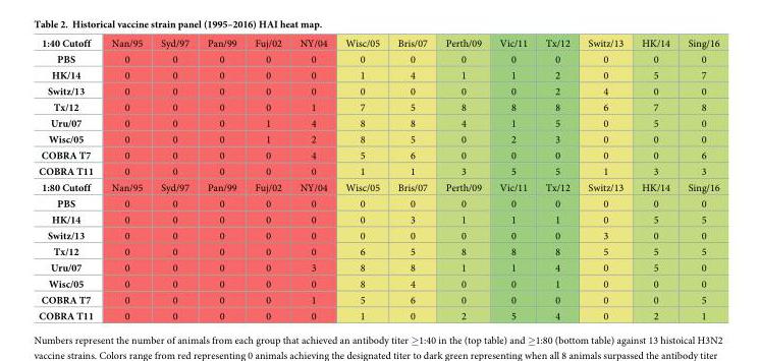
<table><tbody><tr><td>1:40 Cutoff</td><td>Nan/95</td><td>Syd/97</td><td>Pan/99</td><td>Fuj/02</td><td>NY/04</td><td>Wisc/05</td><td>Bris/07</td><td>Perth/09</td><td>Vic/11</td><td>Tx/12</td><td>Switz/13</td><td>HK/14</td><td>Sing/16</td></tr><tr><td>PBS</td><td>0</td><td>0</td><td>0</td><td>0</td><td>0</td><td>0</td><td>0</td><td>0</td><td>0</td><td>0</td><td>0</td><td>0</td><td>0</td></tr><tr><td>HK/14</td><td>0</td><td>0</td><td>0</td><td>0</td><td>0</td><td>1</td><td>4</td><td>1</td><td>1</td><td>2</td><td>0</td><td>5</td><td>7</td></tr><tr><td>Switz/13</td><td>0</td><td>0</td><td>0</td><td>0</td><td>0</td><td>0</td><td>0</td><td>0</td><td>0</td><td>2</td><td>4</td><td>0</td><td>0</td></tr><tr><td>Tx/12</td><td>0</td><td>0</td><td>0</td><td>0</td><td>1</td><td>7</td><td>5</td><td>8</td><td>8</td><td>8</td><td>6</td><td>7</td><td>8</td></tr><tr><td>Uru/07</td><td>0</td><td>0</td><td>0</td><td>1</td><td>4</td><td>8</td><td>8</td><td>4</td><td>1</td><td>5</td><td>0</td><td>5</td><td>0</td></tr><tr><td>Wisc/05</td><td>0</td><td>0</td><td>0</td><td>1</td><td>2</td><td>8</td><td>5</td><td>0</td><td>2</td><td>3</td><td>0</td><td>0</td><td>0</td></tr><tr><td>COBRA T7</td><td>0</td><td>0</td><td>0</td><td>0</td><td>4</td><td>5</td><td>6</td><td>0</td><td>0</td><td>0</td><td>0</td><td>0</td><td>6</td></tr><tr><td>COBRA T11</td><td>0</td><td>0</td><td>0</td><td>0</td><td>0</td><td>1</td><td>1</td><td>3</td><td>5</td><td>5</td><td>1</td><td>3</td><td>3</td></tr><tr><td>1:80 Cutoff</td><td>Nan/95</td><td>Syd/97</td><td>Pan/99</td><td>Fuj/02</td><td>NY/04</td><td>Wisc/05</td><td>Bris/07</td><td>Perth/09</td><td>Vic/11</td><td>Tx/12</td><td>Switz/13</td><td>HK/14</td><td>Sing/16</td></tr><tr><td>PBS</td><td>0</td><td>0</td><td>0</td><td>0</td><td>0</td><td>0</td><td>0</td><td>0</td><td>0</td><td>0</td><td>0</td><td>0</td><td>0</td></tr><tr><td>HK/14</td><td>0</td><td>0</td><td>0</td><td>0</td><td>0</td><td>0</td><td>3</td><td>1</td><td>1</td><td>1</td><td>0</td><td>5</td><td>5</td></tr><tr><td>Switz/13</td><td>0</td><td>0</td><td>0</td><td>0</td><td>0</td><td>0</td><td>0</td><td>0</td><td>0</td><td>0</td><td>3</td><td>0</td><td>0</td></tr><tr><td>Tx/12</td><td>0</td><td>0</td><td>0</td><td>0</td><td>0</td><td>6</td><td>5</td><td>8</td><td>8</td><td>8</td><td>5</td><td>5</td><td>5</td></tr><tr><td>Uru/07</td><td>0</td><td>0</td><td>0</td><td>0</td><td>3</td><td>8</td><td>8</td><td>1</td><td>1</td><td>4</td><td>0</td><td>5</td><td>0</td></tr><tr><td>Wisc/05</td><td>0</td><td>0</td><td>0</td><td>0</td><td>0</td><td>8</td><td>4</td><td>0</td><td>0</td><td>1</td><td>0</td><td>0</td><td>0</td></tr><tr><td>COBRA T7</td><td>0</td><td>0</td><td>0</td><td>0</td><td>1</td><td>5</td><td>6</td><td>0</td><td>0</td><td>0</td><td>0</td><td>0</td><td>5</td></tr><tr><td>COBRA T11</td><td>0</td><td>0</td><td>0</td><td>0</td><td>0</td><td>1</td><td>0</td><td>2</td><td>5</td><td>4</td><td>0</td><td>2</td><td>1</td></tr></tbody></table>